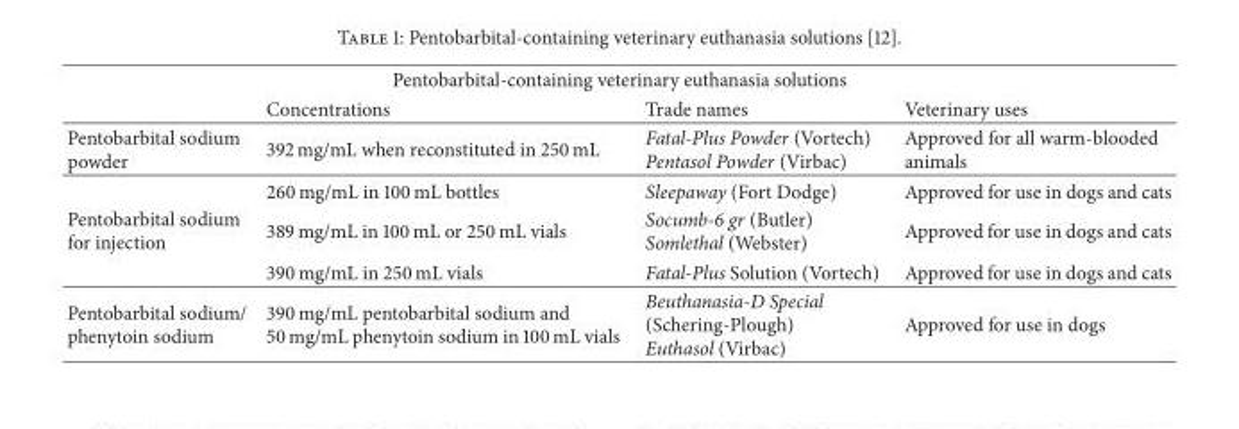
<table><thead><tr><td colspan="4">Pentobarbital-containing veterinary euthanasia solutions</td></tr><tr><td></td><td>Concentrations</td><td>Trade names</td><td>Veterinary uses</td></tr></thead><tbody><tr><td>Pentobarbital sodium powder</td><td>392 mg/mL when reconstituted in 250 mL</td><td>Fatal-Plus Powder (Vortech) Pentasol Powder (Virbac)</td><td>Approved for all warm-blooded animals</td></tr><tr><td rowspan="3">Pentobarbital sodium for injection</td><td>260 mg/mL in 100 mL bottles</td><td>Sleepaway (Fort Dodge)</td><td>Approved for use in dogs and cats</td></tr><tr><td>389 mg/mL in 100 mL or 250 mL vials</td><td>Socumb-6 gr (Butler) Somlethal (Webster)</td><td>Approved for use in dogs and cats</td></tr><tr><td>390 mg/mL in 250 mL vials</td><td>Fatal-Plus Solution (Vortech)</td><td>Approved for use in dogs and cats</td></tr><tr><td>Pentobarbital sodium/ phenytoin sodium</td><td>390 mg/mL pentobarbital sodium and 50 mg/mL phenytoin sodium in 100 mL vials</td><td>Beuthanasia-D Special (Schering-Plough) Euthasol (Virbac)</td><td>Approved for use in dogs</td></tr></tbody></table>